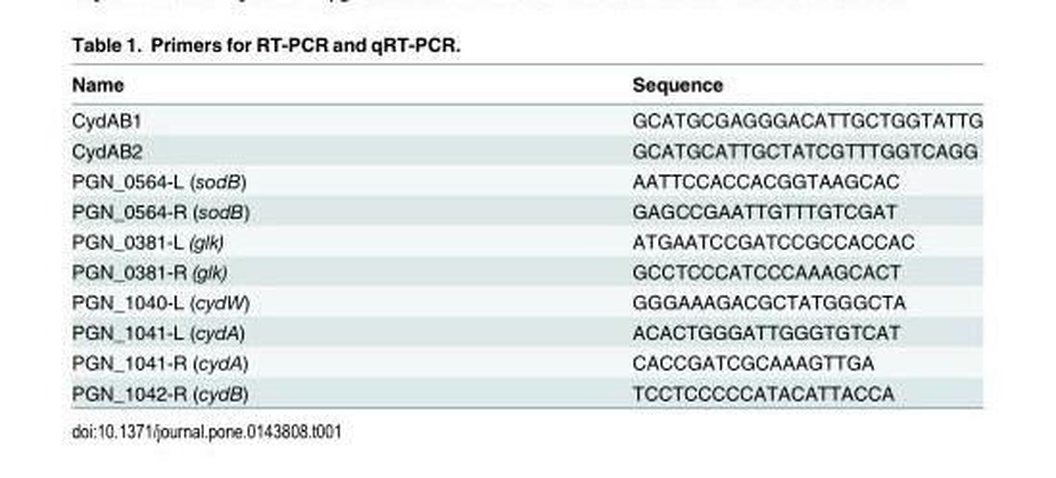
<table><thead><tr><td>Name</td><td>Sequence</td></tr></thead><tbody><tr><td>CydAB1</td><td>GCATGCGAGGGACATTGCTGGTATTG</td></tr><tr><td>CydAB2</td><td>GCATGCATTGCTATCGTTTGGTCAGG</td></tr><tr><td>PGN_0564-L (sodB)</td><td>AATTCCACCACGGTAAGCAC</td></tr><tr><td>PGN_0564-R (sodB)</td><td>GAGCCGAATTGTTTGTCGAT</td></tr><tr><td>PGN_0381-L (glk)</td><td>ATGAATCCGATCCGCCACCAC</td></tr><tr><td>PGN_0381-R (glk)</td><td>GCCTCCCATCCCAAAGCACT</td></tr><tr><td>PGN_1040-L (cydW)</td><td>GGGAAAGACGCTATGGGCTA</td></tr><tr><td>PGN_1041-L (cydA)</td><td>ACACTGGGATTGGGTGTCAT</td></tr><tr><td>PGN_1041-R (cydA)</td><td>CACCGATCGCAAAGTTGA</td></tr><tr><td>PGN_1042-R (cydB)</td><td>TCCTCCCCCATACATTACCA</td></tr></tbody></table>